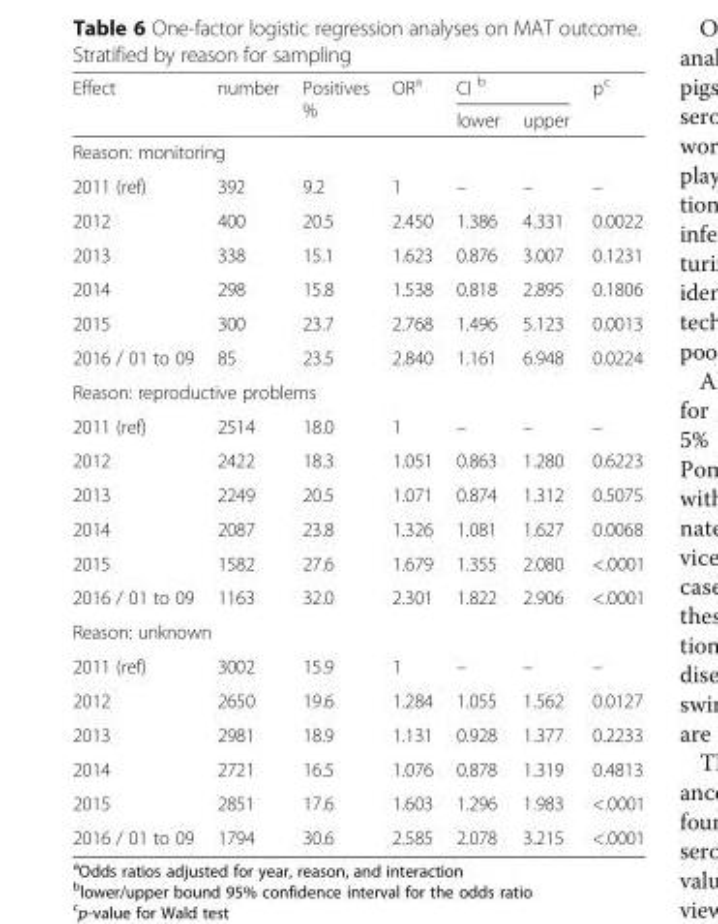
<table><thead><tr><td rowspan="2">Effect</td><td rowspan="2">number</td><td rowspan="2">Positives %</td><td rowspan="2">OR<sup>a</sup></td><td colspan="2">CI <sup>b</sup></td><td rowspan="2">p<sup>c</sup></td></tr><tr><td>lower</td><td>upper</td></tr></thead><tbody><tr><td colspan="7">Reason: monitoring</td></tr><tr><td>2011 (ref)</td><td>392</td><td>9.2</td><td>1</td><td>–</td><td>–</td><td>–</td></tr><tr><td>2012</td><td>400</td><td>20.5</td><td>2.450</td><td>1.386</td><td>4.331</td><td>0.0022</td></tr><tr><td>2013</td><td>338</td><td>15.1</td><td>1.623</td><td>0.876</td><td>3.007</td><td>0.1231</td></tr><tr><td>2014</td><td>298</td><td>15.8</td><td>1.538</td><td>0.818</td><td>2.895</td><td>0.1806</td></tr><tr><td>2015</td><td>300</td><td>23.7</td><td>2.768</td><td>1.496</td><td>5.123</td><td>0.0013</td></tr><tr><td>2016 / 01 to 09</td><td>85</td><td>23.5</td><td>2.840</td><td>1.161</td><td>6.948</td><td>0.0224</td></tr><tr><td colspan="7">Reason: reproductive problems</td></tr><tr><td>2011 (ref)</td><td>2514</td><td>18.0</td><td>1</td><td>–</td><td>–</td><td>–</td></tr><tr><td>2012</td><td>2422</td><td>18.3</td><td>1.051</td><td>0.863</td><td>1.280</td><td>0.6223</td></tr><tr><td>2013</td><td>2249</td><td>20.5</td><td>1.071</td><td>0.874</td><td>1.312</td><td>0.5075</td></tr><tr><td>2014</td><td>2087</td><td>23.8</td><td>1.326</td><td>1.081</td><td>1.627</td><td>0.0068</td></tr><tr><td>2015</td><td>1582</td><td>27.6</td><td>1.679</td><td>1.355</td><td>2.080</td><td>&lt;.0001</td></tr><tr><td>2016 / 01 to 09</td><td>1163</td><td>32.0</td><td>2.301</td><td>1.822</td><td>2.906</td><td>&lt;.0001</td></tr><tr><td colspan="7">Reason: unknown</td></tr><tr><td>2011 (ref)</td><td>3002</td><td>15.9</td><td>1</td><td>–</td><td>–</td><td>–</td></tr><tr><td>2012</td><td>2650</td><td>19.6</td><td>1.284</td><td>1.055</td><td>1.562</td><td>0.0127</td></tr><tr><td>2013</td><td>2981</td><td>18.9</td><td>1.131</td><td>0.928</td><td>1.377</td><td>0.2233</td></tr><tr><td>2014</td><td>2721</td><td>16.5</td><td>1.076</td><td>0.878</td><td>1.319</td><td>0.4813</td></tr><tr><td>2015</td><td>2851</td><td>17.6</td><td>1.603</td><td>1.296</td><td>1.983</td><td>&lt;.0001</td></tr><tr><td>2016 / 01 to 09</td><td>1794</td><td>30.6</td><td>2.585</td><td>2.078</td><td>3.215</td><td>&lt;.0001</td></tr></tbody></table>